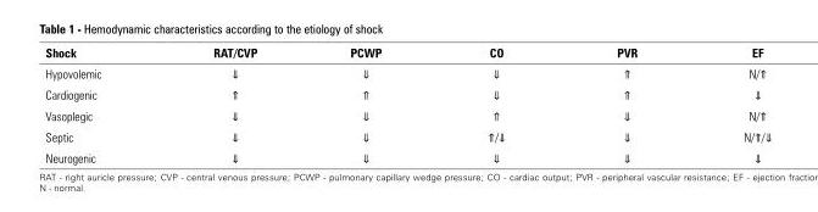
<table><thead><tr><td>Shock</td><td>RAT/CVP</td><td>PCWP</td><td>CO</td><td>PVR</td><td>EF</td></tr></thead><tbody><tr><td>Hypovolemic</td><td>⇓</td><td>⇓</td><td>⇓</td><td>⇑</td><td>N/⇑</td></tr><tr><td>Cardiogenic</td><td>⇑</td><td>⇑</td><td>⇓</td><td>⇑</td><td>⇓</td></tr><tr><td>Vasoplegic</td><td>⇓</td><td>⇓</td><td>⇑</td><td>⇓</td><td>N/⇑</td></tr><tr><td>Septic</td><td>⇓</td><td>⇓</td><td>⇑/⇓</td><td>⇓</td><td>N/⇑/⇓</td></tr><tr><td>Neurogenic</td><td>⇓</td><td>⇓</td><td>⇓</td><td>⇓</td><td>⇓</td></tr></tbody></table>